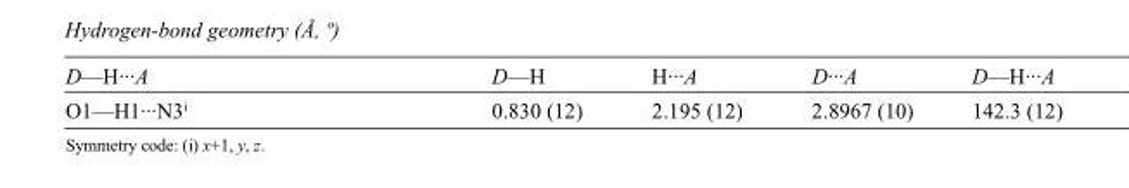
<table><tbody><tr><td>D—H···A</td><td>D—H</td><td>H···A</td><td>D···A</td><td>D—H···A</td></tr><tr><td>O1—H1···N3<sup>i</sup></td><td>0.830 (12)</td><td>2.195 (12)</td><td>2.8967 (10)</td><td>142.3 (12)</td></tr></tbody></table>